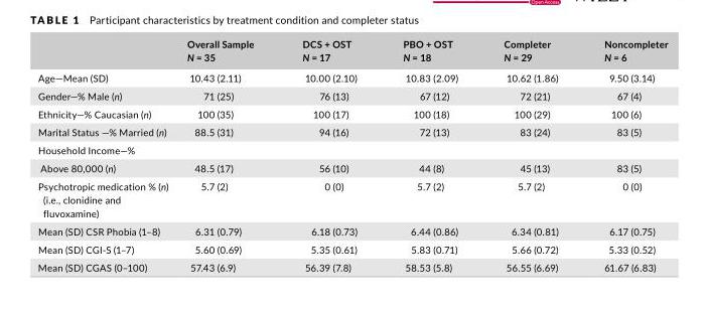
<table><thead><tr><td></td><td>Overall Sample N = 35</td><td>DCS + OST N = 17</td><td>PBO + OST N = 18</td><td>Completer N = 29</td><td>Noncompleter N = 6</td></tr></thead><tbody><tr><td>Age—Mean (SD)</td><td>10.43 (2.11)</td><td>10.00 (2.10)</td><td>10.83 (2.09)</td><td>10.62 (1.86)</td><td>9.50 (3.14)</td></tr><tr><td>Gender—% Male (n)</td><td>71 (25)</td><td>76 (13)</td><td>67 (12)</td><td>72 (21)</td><td>67 (4)</td></tr><tr><td>Ethnicity—% Caucasian (n)</td><td>100 (35)</td><td>100 (17)</td><td>100 (18)</td><td>100 (29)</td><td>100 (6)</td></tr><tr><td>Marital Status —% Married (n)</td><td>88.5 (31)</td><td>94 (16)</td><td>72 (13)</td><td>83 (24)</td><td>83 (5)</td></tr><tr><td colspan="6">Household Income—%</td></tr><tr><td>Above 80,000 (n)</td><td>48.5 (17)</td><td>56 (10)</td><td>44 (8)</td><td>45 (13)</td><td>83 (5)</td></tr><tr><td>Psychotropic medication % (n) (i.e., clonidine and fluvoxamine)</td><td>5.7 (2)</td><td>0 (0)</td><td>5.7 (2)</td><td>5.7 (2)</td><td>0 (0)</td></tr><tr><td>Mean (SD) CSR Phobia (1–8)</td><td>6.31 (0.79)</td><td>6.18 (0.73)</td><td>6.44 (0.86)</td><td>6.34 (0.81)</td><td>6.17 (0.75)</td></tr><tr><td>Mean (SD) CGI- S (1–7)</td><td>5.60 (0.69)</td><td>5.35 (0.61)</td><td>5.83 (0.71)</td><td>5.66 (0.72)</td><td>5.33 (0.52)</td></tr><tr><td>Mean (SD) CGAS (0–100)</td><td>57.43 (6.9)</td><td>56.39 (7.8)</td><td>58.53 (5.8)</td><td>56.55 (6.69)</td><td>61.67 (6.83)</td></tr></tbody></table>